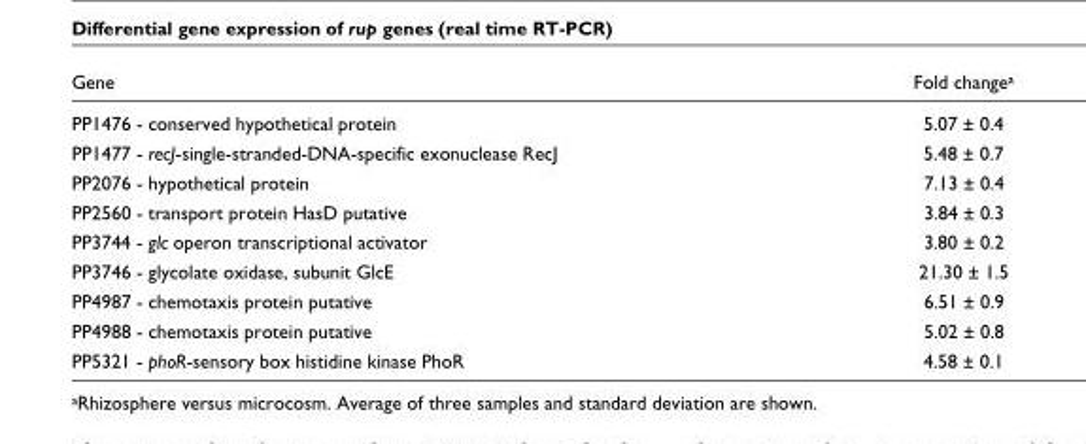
<table><thead><tr><td>Gene</td><td>Fold change<sup>a</sup></td></tr></thead><tbody><tr><td>PP1476 - conserved hypothetical protein</td><td>5.07 ± 0.4</td></tr><tr><td>PP1477 - recJ-single-stranded-DNA-specific exonuclease RecJ</td><td>5.48 ± 0.7</td></tr><tr><td>PP2076 - hypothetical protein</td><td>7.13 ± 0.4</td></tr><tr><td>PP2560 - transport protein HasD putative</td><td>3.84 ± 0.3</td></tr><tr><td>PP3744 - glc operon transcriptional activator</td><td>3.80 ± 0.2</td></tr><tr><td>PP3746 - glycolate oxidase, subunit GlcE</td><td>21.30 ± 1.5</td></tr><tr><td>PP4987 - chemotaxis protein putative</td><td>6.51 ± 0.9</td></tr><tr><td>PP4988 - chemotaxis protein putative</td><td>5.02 ± 0.8</td></tr><tr><td>PP5321 - phoR-sensory box histidine kinase PhoR</td><td>4.58 ± 0.1</td></tr></tbody></table>